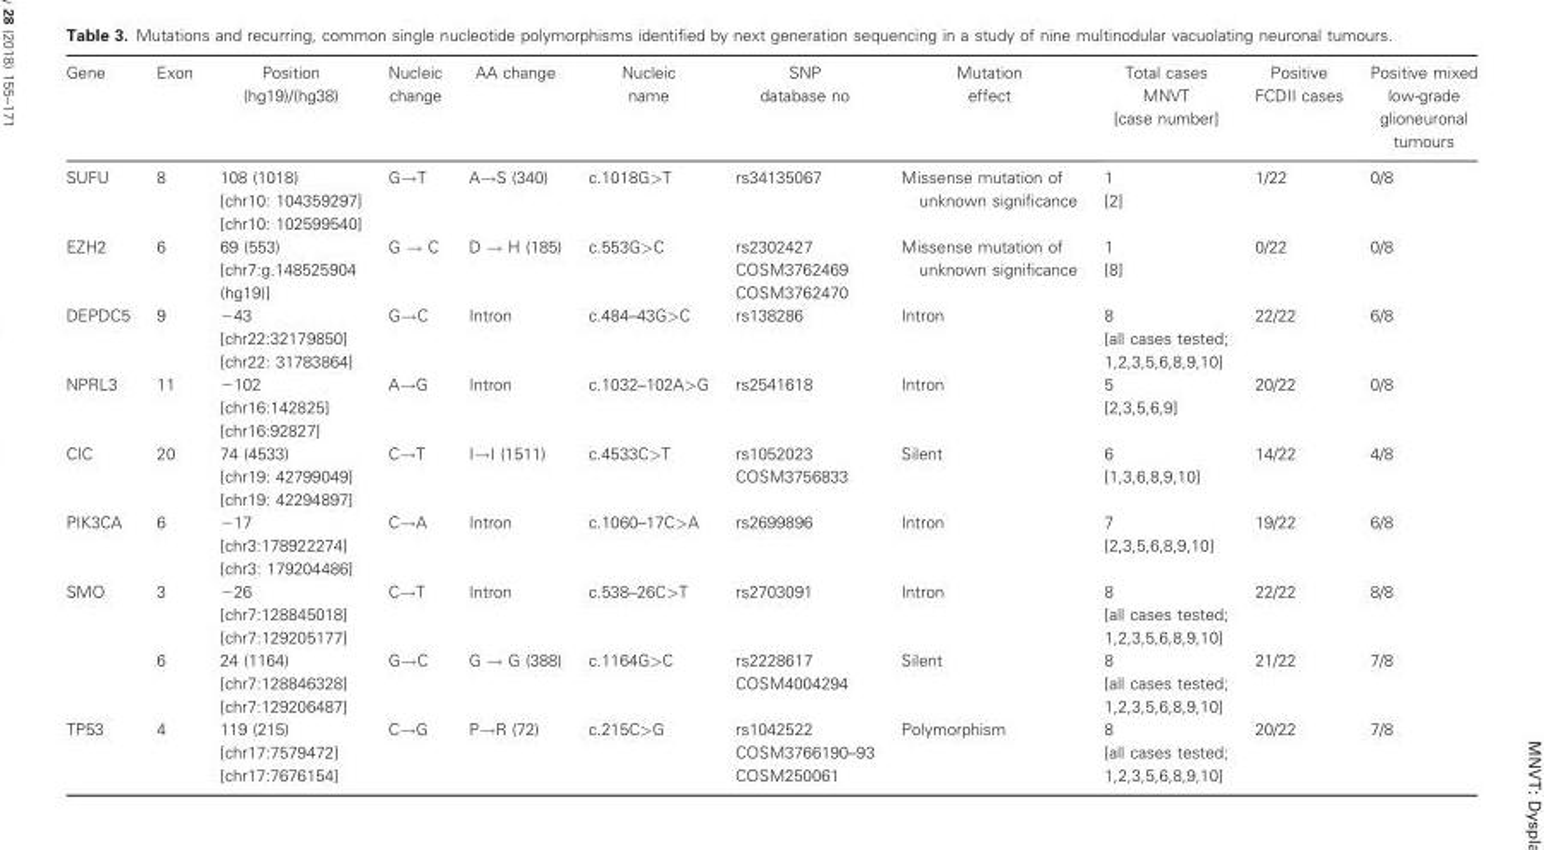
<table><thead><tr><td>Gene</td><td>Exon</td><td>Position (hg19)/(hg38)</td><td>Nucleic change</td><td>AA change</td><td>Nucleic name</td><td>SNP database no</td><td>Mutation effect</td><td>Total cases MNVT [case number]</td><td>Positive FCDII cases</td><td>Positive mixed low-grade glioneuronal tumours</td></tr></thead><tbody><tr><td>SUFU</td><td>8</td><td>108 (1018) [chr10: 104359297] [chr10: 102599540]</td><td>G→T</td><td>A→S (340)</td><td>c.1018G&gt;T</td><td>rs34135067</td><td>Missense mutation of unknown significance</td><td>1 [2]</td><td>1/22</td><td>0/8</td></tr><tr><td>EZH2</td><td>6</td><td>69 (553) [chr7:g.148525904 (hg19)]</td><td>G → C</td><td>D → H (185)</td><td>c.553G&gt;C</td><td>rs2302427 COSM3762469 COSM3762470</td><td>Missense mutation of unknown significance</td><td>1 [8]</td><td>0/22</td><td>0/8</td></tr><tr><td>DEPDC5</td><td>9</td><td>−43 [chr22:32179850] [chr22: 31783864]</td><td>G→C</td><td>Intron</td><td>c.484–43G&gt;C</td><td>rs138286</td><td>Intron</td><td>8 [all cases tested; 1,2,3,5,6,8,9,10]</td><td>22/22</td><td>6/8</td></tr><tr><td>NPRL3</td><td>11</td><td>−102 [chr16:142825] [chr16:92827]</td><td>A→G</td><td>Intron</td><td>c.1032–102A&gt;G</td><td>rs2541618</td><td>Intron</td><td>5 [2,3,5,6,9]</td><td>20/22</td><td>0/8</td></tr><tr><td>CIC</td><td>20</td><td>74 (4533) [chr19: 42799049] [chr19: 42294897]</td><td>C→T</td><td>I→I (1511)</td><td>c.4533C&gt;T</td><td>rs1052023 COSM3756833</td><td>Silent</td><td>6 [1,3,6,8,9,10]</td><td>14/22</td><td>4/8</td></tr><tr><td>PIK3CA</td><td>6</td><td>−17 [chr3:178922274] [chr3: 179204486]</td><td>C→A</td><td>Intron</td><td>c.1060–17C&gt;A</td><td>rs2699896</td><td>Intron</td><td>7 [2,3,5,6,8,9,10]</td><td>19/22</td><td>6/8</td></tr><tr><td rowspan="2">SMO</td><td>3</td><td>−26 [chr7:128845018] [chr7:129205177]</td><td>C→T</td><td>Intron</td><td>c.538–26C&gt;T</td><td>rs2703091</td><td>Intron</td><td>8 [all cases tested; 1,2,3,5,6,8,9,10]</td><td>22/22</td><td>8/8</td></tr><tr><td>6</td><td>24 (1164) [chr7:128846328] [chr7:129206487]</td><td>G→C</td><td>G → G (388)</td><td>c.1164G&gt;C</td><td>rs2228617 COSM4004294</td><td>Silent</td><td>8 [all cases tested; 1,2,3,5,6,8,9,10]</td><td>21/22</td><td>7/8</td></tr><tr><td>TP53</td><td>4</td><td>119 (215) [chr17:7579472] [chr17:7676154]</td><td>C→G</td><td>P→R (72)</td><td>c.215C&gt;G</td><td>rs1042522 COSM3766190–93 COSM250061</td><td>Polymorphism</td><td>8 [all cases tested; 1,2,3,5,6,8,9,10]</td><td>20/22</td><td>7/8</td></tr></tbody></table>